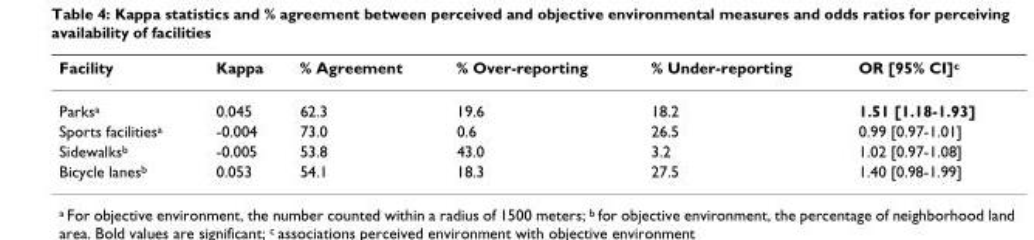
<table><thead><tr><td>Facility</td><td>Kappa</td><td>% Agreement</td><td>% Over-reporting</td><td>% Under-reporting</td><td>OR [95% CI]<sup>c</sup></td></tr></thead><tbody><tr><td>Parks<sup>a</sup></td><td>0.045</td><td>62.3</td><td>19.6</td><td>18.2</td><td>1.51 [1.18-1.93]</td></tr><tr><td>Sports facilities<sup>a</sup></td><td>-0.004</td><td>73.0</td><td>0.6</td><td>26.5</td><td>0.99 [0.97-1.01]</td></tr><tr><td>Sidewalks<sup>b</sup></td><td>-0.005</td><td>53.8</td><td>43.0</td><td>3.2</td><td>1.02 [0.97-1.08]</td></tr><tr><td>Bicycle lanes<sup>b</sup></td><td>0.053</td><td>54.1</td><td>18.3</td><td>27.5</td><td>1.40 [0.98-1.99]</td></tr></tbody></table>